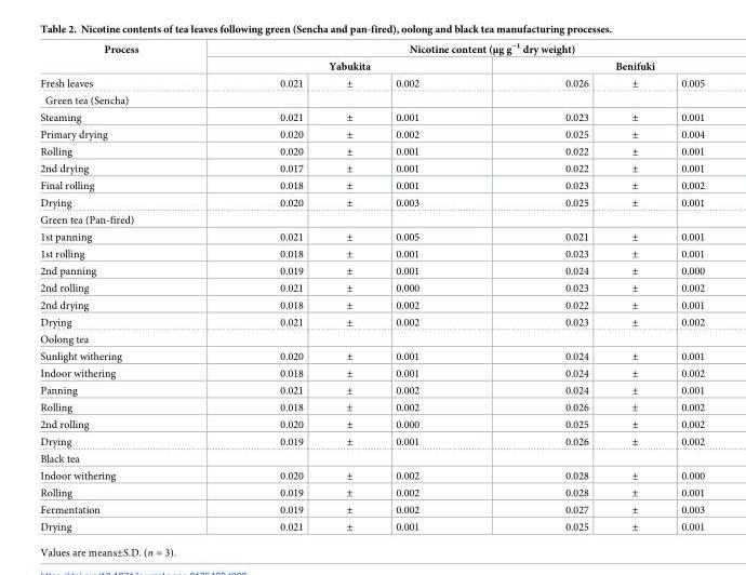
<table><thead><tr><td rowspan="3">Process Fresh leaves</td><td colspan="6">Nicotine content (μg g<sup>−1</sup> dry weight)</td></tr><tr><td colspan="3">Yabukita</td><td colspan="3">Benifuki</td></tr><tr><td>0.021</td><td>±</td><td>0.002</td><td>0.026</td><td>±</td><td>0.005</td></tr></thead><tbody><tr><td colspan="7">Green tea (Sencha)</td></tr><tr><td>Steaming</td><td>0.021</td><td>±</td><td>0.001</td><td>0.023</td><td>±</td><td>0.001</td></tr><tr><td>Primary drying</td><td>0.020</td><td>±</td><td>0.002</td><td>0.025</td><td>±</td><td>0.004</td></tr><tr><td>Rolling</td><td>0.020</td><td>±</td><td>0.001</td><td>0.022</td><td>±</td><td>0.001</td></tr><tr><td>2nd drying</td><td>0.017</td><td>±</td><td>0.001</td><td>0.022</td><td>±</td><td>0.001</td></tr><tr><td>Final rolling</td><td>0.018</td><td>±</td><td>0.001</td><td>0.023</td><td>±</td><td>0.002</td></tr><tr><td>Drying</td><td>0.020</td><td>±</td><td>0.003</td><td>0.025</td><td>±</td><td>0.001</td></tr><tr><td colspan="7">Green tea (Pan-fired)</td></tr><tr><td>1st panning</td><td>0.021</td><td>±</td><td>0.005</td><td>0.021</td><td>±</td><td>0.001</td></tr><tr><td>1st rolling</td><td>0.018</td><td>±</td><td>0.001</td><td>0.023</td><td>±</td><td>0.001</td></tr><tr><td>2nd panning</td><td>0.019</td><td>±</td><td>0.001</td><td>0.024</td><td>±</td><td>0.000</td></tr><tr><td>2nd rolling</td><td>0.021</td><td>±</td><td>0.000</td><td>0.023</td><td>±</td><td>0.002</td></tr><tr><td>2nd drying</td><td>0.018</td><td>±</td><td>0.002</td><td>0.022</td><td>±</td><td>0.001</td></tr><tr><td>Drying</td><td>0.021</td><td>±</td><td>0.002</td><td>0.023</td><td>±</td><td>0.002</td></tr><tr><td colspan="7">Oolong tea</td></tr><tr><td>Sunlight withering</td><td>0.020</td><td>±</td><td>0.001</td><td>0.024</td><td>±</td><td>0.001</td></tr><tr><td>Indoor withering</td><td>0.018</td><td>±</td><td>0.001</td><td>0.024</td><td>±</td><td>0.002</td></tr><tr><td>Panning</td><td>0.021</td><td>±</td><td>0.002</td><td>0.024</td><td>±</td><td>0.001</td></tr><tr><td>Rolling</td><td>0.018</td><td>±</td><td>0.002</td><td>0.026</td><td>±</td><td>0.002</td></tr><tr><td>2nd rolling</td><td>0.020</td><td>±</td><td>0.000</td><td>0.025</td><td>±</td><td>0.002</td></tr><tr><td>Drying</td><td>0.019</td><td>±</td><td>0.001</td><td>0.026</td><td>±</td><td>0.002</td></tr><tr><td colspan="7">Black tea</td></tr><tr><td>Indoor withering</td><td>0.020</td><td>±</td><td>0.002</td><td>0.028</td><td>±</td><td>0.000</td></tr><tr><td>Rolling</td><td>0.019</td><td>±</td><td>0.002</td><td>0.028</td><td>±</td><td>0.001</td></tr><tr><td>Fermentation</td><td>0.019</td><td>±</td><td>0.002</td><td>0.027</td><td>±</td><td>0.003</td></tr><tr><td>Drying</td><td>0.021</td><td>±</td><td>0.001</td><td>0.025</td><td>±</td><td>0.001</td></tr></tbody></table>